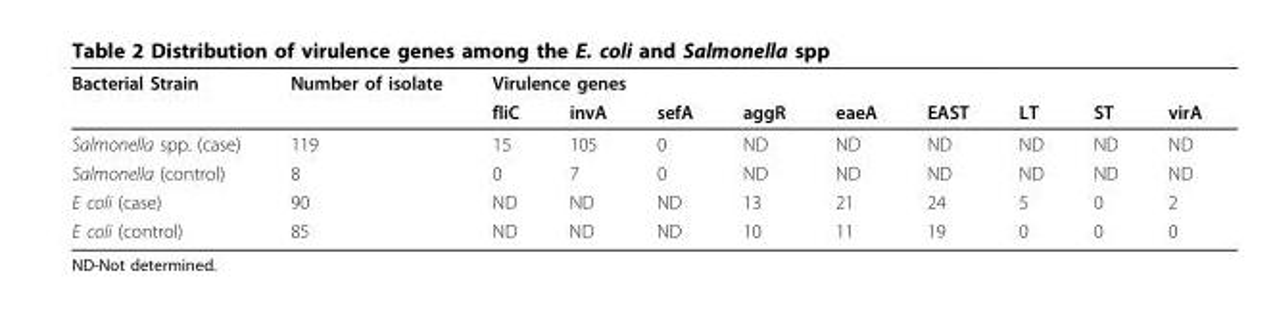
<table><thead><tr><td rowspan="2">Bacterial Strain</td><td rowspan="2">Number of isolate</td><td colspan="9">Virulence genes</td></tr><tr><td>fliC</td><td>invA</td><td>sefA</td><td>aggR</td><td>eaeA</td><td>EAST</td><td>LT</td><td>ST</td><td>virA</td></tr></thead><tbody><tr><td>Salmonella spp. (case)</td><td>119</td><td>15</td><td>105</td><td>0</td><td>ND</td><td>ND</td><td>ND</td><td>ND</td><td>ND</td><td>ND</td></tr><tr><td>Salmonella (control)</td><td>8</td><td>0</td><td>7</td><td>0</td><td>ND</td><td>ND</td><td>ND</td><td>ND</td><td>ND</td><td>ND</td></tr><tr><td>E coli (case)</td><td>90</td><td>ND</td><td>ND</td><td>ND</td><td>13</td><td>21</td><td>24</td><td>5</td><td>0</td><td>2</td></tr><tr><td>E coli (control)</td><td>85</td><td>ND</td><td>ND</td><td>ND</td><td>10</td><td>11</td><td>19</td><td>0</td><td>0</td><td>0</td></tr></tbody></table>